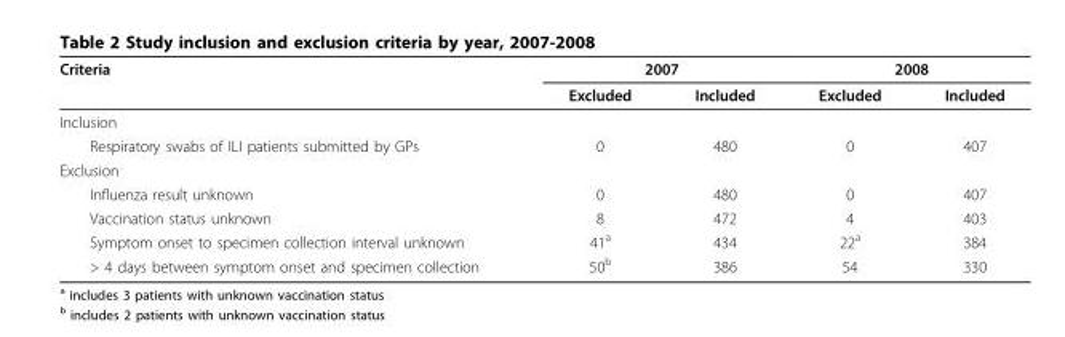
<table><thead><tr><td rowspan="2">Criteria</td><td colspan="2">2007</td><td colspan="2">2008</td></tr><tr><td>Excluded</td><td>Included</td><td>Excluded</td><td>Included</td></tr></thead><tbody><tr><td colspan="5">Inclusion</td></tr><tr><td>Respiratory swabs of ILI patients submitted by GPs</td><td>0</td><td>480</td><td>0</td><td>407</td></tr><tr><td colspan="5">Exclusion</td></tr><tr><td>Influenza result unknown</td><td>0</td><td>480</td><td>0</td><td>407</td></tr><tr><td>Vaccination status unknown</td><td>8</td><td>472</td><td>4</td><td>403</td></tr><tr><td>Symptom onset to specimen collection interval unknown</td><td>41<sup>a</sup></td><td>434</td><td>22<sup>a</sup></td><td>384</td></tr><tr><td>&gt; 4 days between symptom onset and specimen collection</td><td>50<sup>b</sup></td><td>386</td><td>54</td><td>330</td></tr></tbody></table>